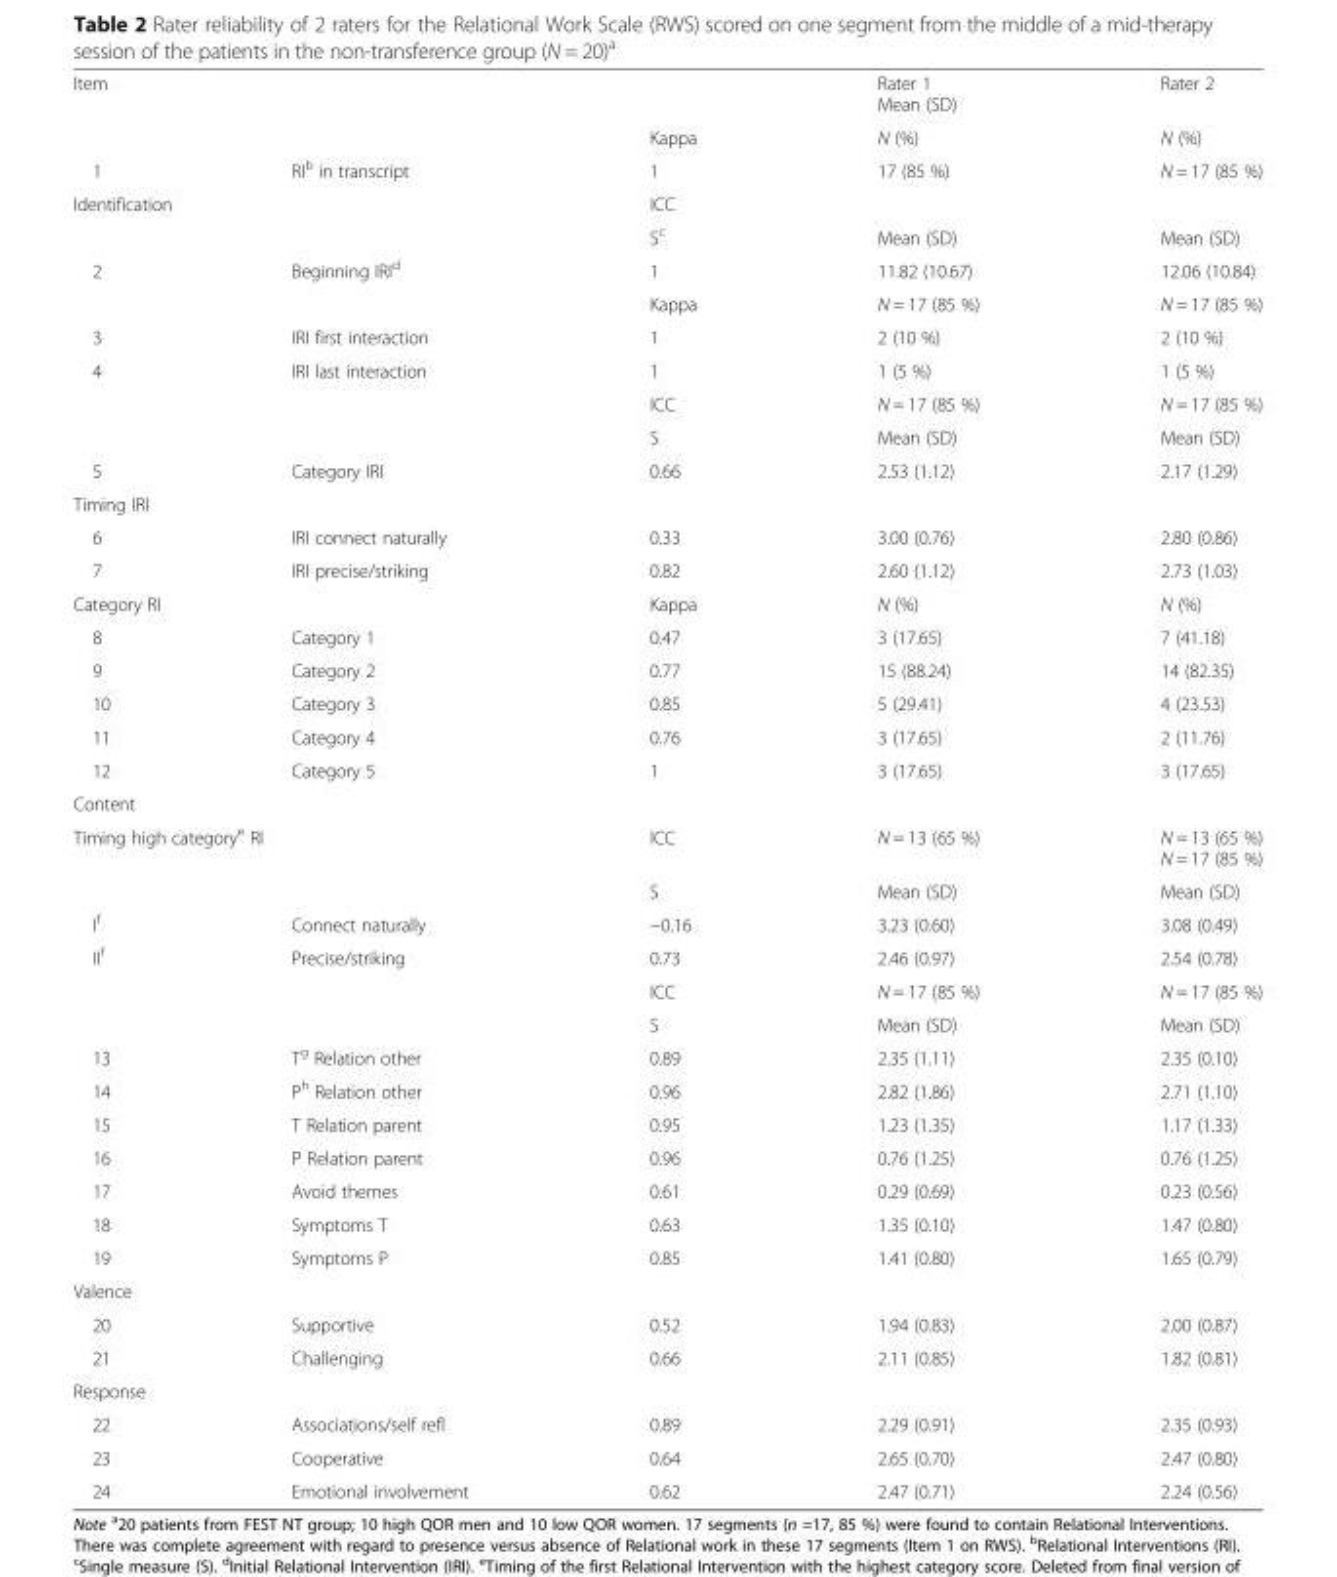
<table><tbody><tr><td rowspan="2">Item</td><td></td><td></td><td>Rater 1 Mean (SD)</td><td>Rater 2</td></tr><tr><td></td><td>Kappa</td><td>N (%)</td><td>N (%)</td></tr><tr><td>1</td><td>RI<sup>b</sup> in transcript</td><td>1</td><td>17 (85 %)</td><td>N = 17 (85 %)</td></tr><tr><td rowspan="2" colspan="2">Identification</td><td>ICC</td><td colspan="2"></td></tr><tr><td>S<sup>c</sup></td><td>Mean (SD)</td><td>Mean (SD)</td></tr><tr><td>2</td><td>Beginning IRI<sup>d</sup></td><td>1</td><td>11.82 (10.67)</td><td>12.06 (10.84)</td></tr><tr><td colspan="2"></td><td>Kappa</td><td>N = 17 (85 %)</td><td>N = 17 (85 %)</td></tr><tr><td>3</td><td>IRI first interaction</td><td>1</td><td>2 (10 %)</td><td>2 (10 %)</td></tr><tr><td>4</td><td>IRI last interaction</td><td>1</td><td>1 (5 %)</td><td>1 (5 %)</td></tr><tr><td colspan="2"></td><td>ICC</td><td>N = 17 (85 %)</td><td>N = 17 (85 %)</td></tr><tr><td colspan="2"></td><td>S</td><td>Mean (SD)</td><td>Mean (SD)</td></tr><tr><td>5</td><td>Category IRI</td><td>0.66</td><td>2.53 (1.12)</td><td>2.17 (1.29)</td></tr><tr><td colspan="5">Timing IRI</td></tr><tr><td>6</td><td>IRI connect naturally</td><td>0.33</td><td>3.00 (0.76)</td><td>2.80 (0.86)</td></tr><tr><td>7</td><td>IRI precise/striking</td><td>0.82</td><td>2.60 (1.12)</td><td>2.73 (1.03)</td></tr><tr><td colspan="2">Category RI</td><td>Kappa</td><td>N (%)</td><td>N (%)</td></tr><tr><td>8</td><td>Category 1</td><td>0.47</td><td>3 (17.65)</td><td>7 (41.18)</td></tr><tr><td>9</td><td>Category 2</td><td>0.77</td><td>15 (88.24)</td><td>14 (82.35)</td></tr><tr><td>10</td><td>Category 3</td><td>0.85</td><td>5 (29.41)</td><td>4 (23.53)</td></tr><tr><td>11</td><td>Category 4</td><td>0.76</td><td>3 (17.65)</td><td>2 (11.76)</td></tr><tr><td>12</td><td>Category 5</td><td>1</td><td>3 (17.65)</td><td>3 (17.65)</td></tr><tr><td colspan="5">Content</td></tr><tr><td rowspan="2" colspan="2">Timing high category<sup>e</sup> RI</td><td>ICC</td><td>N = 13 (65 %)</td><td>N = 13 (65 %) N = 17 (85 %)</td></tr><tr><td>S</td><td>Mean (SD)</td><td>Mean (SD)</td></tr><tr><td>I<sup>f</sup></td><td>Connect naturally</td><td>−0.16</td><td>3.23 (0.60)</td><td>3.08 (0.49)</td></tr><tr><td rowspan="3">II<sup>f</sup></td><td>Precise/striking</td><td>0.73</td><td>2.46 (0.97)</td><td>2.54 (0.78)</td></tr><tr><td></td><td>ICC</td><td>N = 17 (85 %)</td><td>N = 17 (85 %)</td></tr><tr><td></td><td>S</td><td>Mean (SD)</td><td>Mean (SD)</td></tr><tr><td>13</td><td>T<sup>g</sup> Relation other</td><td>0.89</td><td>2.35 (1.11)</td><td>2.35 (0.10)</td></tr><tr><td>14</td><td>P<sup>h</sup> Relation other</td><td>0.96</td><td>2.82 (1.86)</td><td>2.71 (1.10)</td></tr><tr><td>15</td><td>T Relation parent</td><td>0.95</td><td>1.23 (1.35)</td><td>1.17 (1.33)</td></tr><tr><td>16</td><td>P Relation parent</td><td>0.96</td><td>0.76 (1.25)</td><td>0.76 (1.25)</td></tr><tr><td>17</td><td>Avoid themes</td><td>0.61</td><td>0.29 (0.69)</td><td>0.23 (0.56)</td></tr><tr><td>18</td><td>Symptoms T</td><td>0.63</td><td>1.35 (0.10)</td><td>1.47 (0.80)</td></tr><tr><td>19</td><td>Symptoms P</td><td>0.85</td><td>1.41 (0.80)</td><td>1.65 (0.79)</td></tr><tr><td colspan="5">Valence</td></tr><tr><td>20</td><td>Supportive</td><td>0.52</td><td>1.94 (0.83)</td><td>2.00 (0.87)</td></tr><tr><td>21</td><td>Challenging</td><td>0.66</td><td>2.11 (0.85)</td><td>1.82 (0.81)</td></tr><tr><td colspan="5">Response</td></tr><tr><td>22</td><td>Associations/self refl</td><td>0.89</td><td>2.29 (0.91)</td><td>2.35 (0.93)</td></tr><tr><td>23</td><td>Cooperative</td><td>0.64</td><td>2.65 (0.70)</td><td>2.47 (0.80)</td></tr><tr><td>24</td><td>Emotional involvement</td><td>0.62</td><td>2.47 (0.71)</td><td>2.24 (0.56)</td></tr></tbody></table>